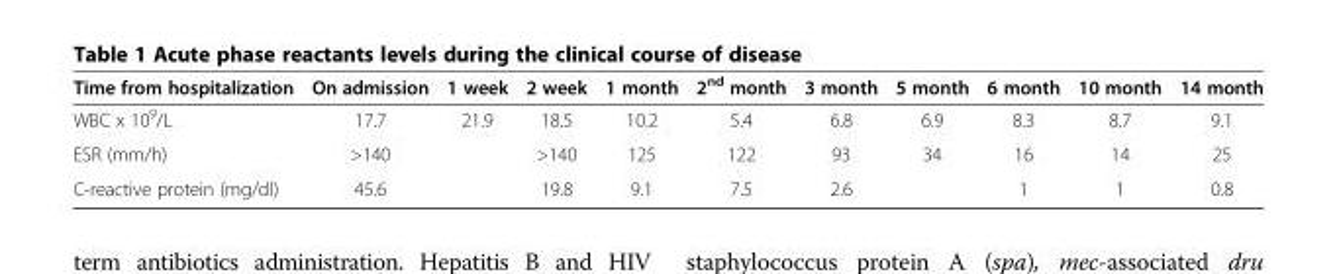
<table><thead><tr><td>Time from hospitalization</td><td>On admission</td><td>1 week</td><td>2 week</td><td>1 month</td><td>2<sup>nd</sup> month</td><td>3 month</td><td>5 month</td><td>6 month</td><td>10 month</td><td>14 month</td></tr></thead><tbody><tr><td>WBC x 10<sup>9</sup>/L</td><td>17.7</td><td>21.9</td><td>18.5</td><td>10.2</td><td>5.4</td><td>6.8</td><td>6.9</td><td>8.3</td><td>8.7</td><td>9.1</td></tr><tr><td>ESR (mm/h)</td><td>&gt;140</td><td></td><td>&gt;140</td><td>125</td><td>122</td><td>93</td><td>34</td><td>16</td><td>14</td><td>25</td></tr><tr><td>C-reactive protein (mg/dl)</td><td>45.6</td><td></td><td>19.8</td><td>9.1</td><td>7.5</td><td>2.6</td><td></td><td>1</td><td>1</td><td>0.8</td></tr></tbody></table>